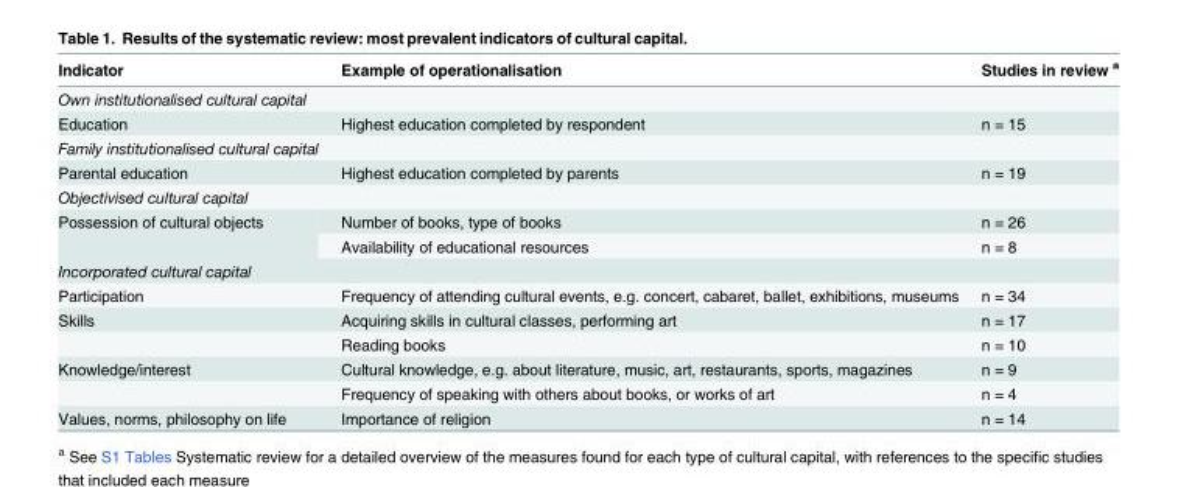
<table><thead><tr><td>Indicator</td><td>Example of operationalisation</td><td>Studies in review <sup>a</sup></td></tr></thead><tbody><tr><td colspan="3">Own institutionalised cultural capital</td></tr><tr><td>Education</td><td>Highest education completed by respondent</td><td>n = 15</td></tr><tr><td colspan="3">Family institutionalised cultural capital</td></tr><tr><td>Parental education</td><td>Highest education completed by parents</td><td>n = 19</td></tr><tr><td colspan="3">Objectivised cultural capital</td></tr><tr><td rowspan="2">Possession of cultural objects</td><td>Number of books, type of books</td><td>n = 26</td></tr><tr><td>Availability of educational resources</td><td>n = 8</td></tr><tr><td colspan="3">Incorporated cultural capital</td></tr><tr><td>Participation</td><td>Frequency of attending cultural events, e.g. concert, cabaret, ballet, exhibitions, museums</td><td>n = 34</td></tr><tr><td rowspan="2">Skills</td><td>Acquiring skills in cultural classes, performing art</td><td>n = 17</td></tr><tr><td>Reading books</td><td>n = 10</td></tr><tr><td rowspan="2">Knowledge/interest</td><td>Cultural knowledge, e.g. about literature, music, art, restaurants, sports, magazines</td><td>n = 9</td></tr><tr><td>Frequency of speaking with others about books, or works of art</td><td>n = 4</td></tr><tr><td>Values, norms, philosophy on life</td><td>Importance of religion</td><td>n = 14</td></tr></tbody></table>